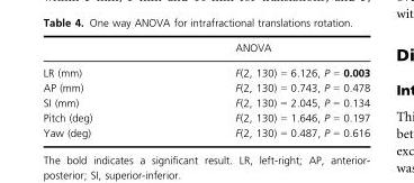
<table><thead><tr><td></td><td>ANOVA</td></tr></thead><tbody><tr><td>LR (mm)</td><td>F(2, 130) = 6.126, P = 0.003</td></tr><tr><td>AP (mm)</td><td>F(2, 130) = 0.743, P = 0.478</td></tr><tr><td>SI (mm)</td><td>F(2, 130) = 2.045, P = 0.134</td></tr><tr><td>Pitch (deg)</td><td>F(2, 130) = 1.646, P = 0.197</td></tr><tr><td>Yaw (deg)</td><td>F(2, 130) = 0.487, P = 0.616</td></tr></tbody></table>